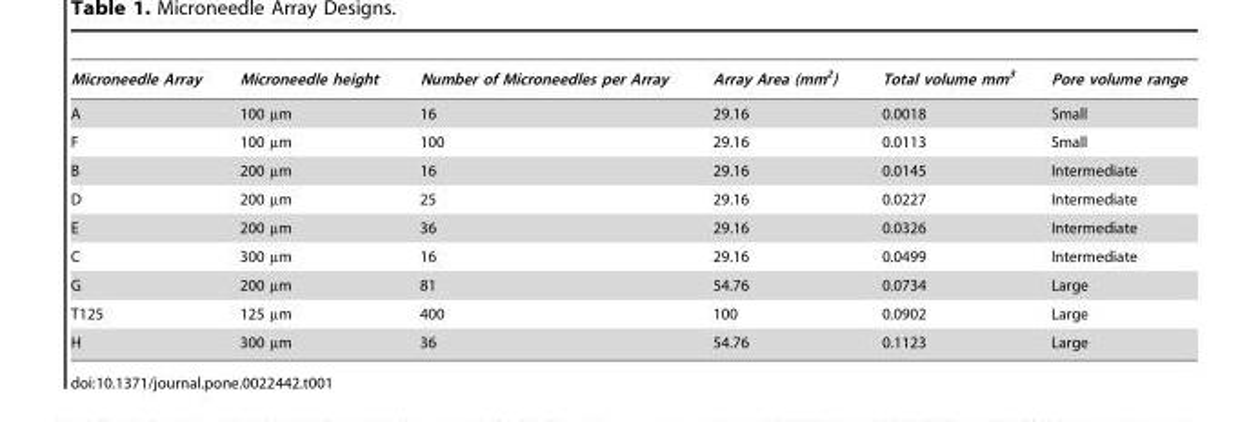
<table><thead><tr><td>Microneedle Array</td><td>Microneedle height</td><td>Number of Microneedles per Array</td><td>Array Area (mm<sup>2</sup>)</td><td>Total volume mm<sup>3</sup></td><td>Pore volume range</td></tr></thead><tbody><tr><td>A</td><td>100 µm</td><td>16</td><td>29.16</td><td>0.0018</td><td>Small</td></tr><tr><td>F</td><td>100 µm</td><td>100</td><td>29.16</td><td>0.0113</td><td>Small</td></tr><tr><td>B</td><td>200 µm</td><td>16</td><td>29.16</td><td>0.0145</td><td>Intermediate</td></tr><tr><td>D</td><td>200 µm</td><td>25</td><td>29.16</td><td>0.0227</td><td>Intermediate</td></tr><tr><td>E</td><td>200 µm</td><td>36</td><td>29.16</td><td>0.0326</td><td>Intermediate</td></tr><tr><td>C</td><td>300 µm</td><td>16</td><td>29.16</td><td>0.0499</td><td>Intermediate</td></tr><tr><td>G</td><td>200 µm</td><td>81</td><td>54.76</td><td>0.0734</td><td>Large</td></tr><tr><td>T125</td><td>125 µm</td><td>400</td><td>100</td><td>0.0902</td><td>Large</td></tr><tr><td>H</td><td>300 µm</td><td>36</td><td>54.76</td><td>0.1123</td><td>Large</td></tr></tbody></table>